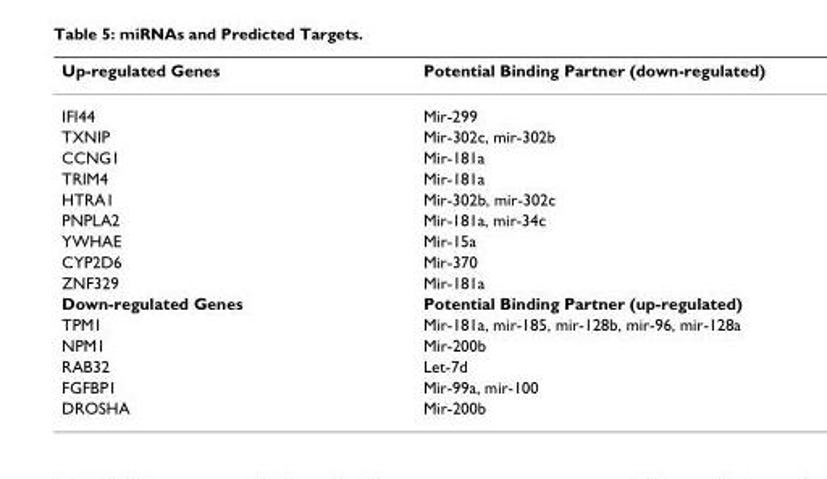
<table><thead><tr><td>Up-regulated Genes</td><td>Potential Binding Partner (down-regulated)</td></tr></thead><tbody><tr><td>IFI44</td><td>Mir-299</td></tr><tr><td>TXNIP</td><td>Mir-302c, mir-302b</td></tr><tr><td>CCNG1</td><td>Mir-181a</td></tr><tr><td>TRIM4</td><td>Mir-181a</td></tr><tr><td>HTRA1</td><td>Mir-302b, mir-302c</td></tr><tr><td>PNPLA2</td><td>Mir-181a, mir-34c</td></tr><tr><td>YWHAE</td><td>Mir-15a</td></tr><tr><td>CYP2D6</td><td>Mir-370</td></tr><tr><td>ZNF329</td><td>Mir-181a</td></tr><tr><td>Down-regulated Genes</td><td>Potential Binding Partner (up-regulated)</td></tr><tr><td>TPM1</td><td>Mir-181a, mir-185, mir-128b, mir-96, mir-128a</td></tr><tr><td>NPM1</td><td>Mir-200b</td></tr><tr><td>RAB32</td><td>Let-7d</td></tr><tr><td>FGFBP1</td><td>Mir-99a, mir-100</td></tr><tr><td>DROSHA</td><td>Mir-200b</td></tr></tbody></table>